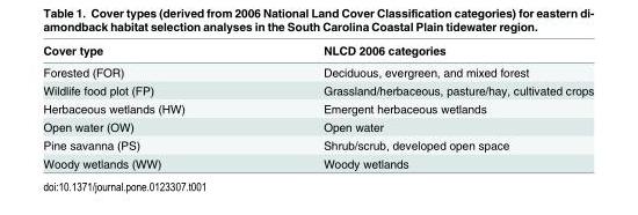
<table><thead><tr><td>Cover type</td><td>NLCD 2006 categories</td></tr></thead><tbody><tr><td>Forested (FOR)</td><td>Deciduous, evergreen, and mixed forest</td></tr><tr><td>Wildlife food plot (FP)</td><td>Grassland/herbaceous, pasture/hay, cultivated crops</td></tr><tr><td>Herbaceous wetlands (HW)</td><td>Emergent herbaceous wetlands</td></tr><tr><td>Open water (OW)</td><td>Open water</td></tr><tr><td>Pine savanna (PS)</td><td>Shrub/scrub, developed open space</td></tr><tr><td>Woody wetlands (WW)</td><td>Woody wetlands</td></tr></tbody></table>